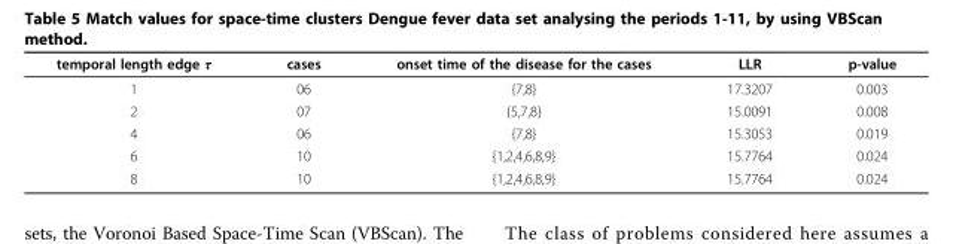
<table><thead><tr><td>temporal length edge τ</td><td>cases</td><td>onset time of the disease for the cases</td><td>LLR</td><td>p-value</td></tr></thead><tbody><tr><td>1</td><td>06</td><td>{7,8}</td><td>17.3207</td><td>0.003</td></tr><tr><td>2</td><td>07</td><td>{5,7,8}</td><td>15.0091</td><td>0.008</td></tr><tr><td>4</td><td>06</td><td>{7,8}</td><td>15.3053</td><td>0.019</td></tr><tr><td>6</td><td>10</td><td>{1,2,4,6,8,9}</td><td>15.7764</td><td>0.024</td></tr><tr><td>8</td><td>10</td><td>{1,2,4,6,8,9}</td><td>15.7764</td><td>0.024</td></tr></tbody></table>